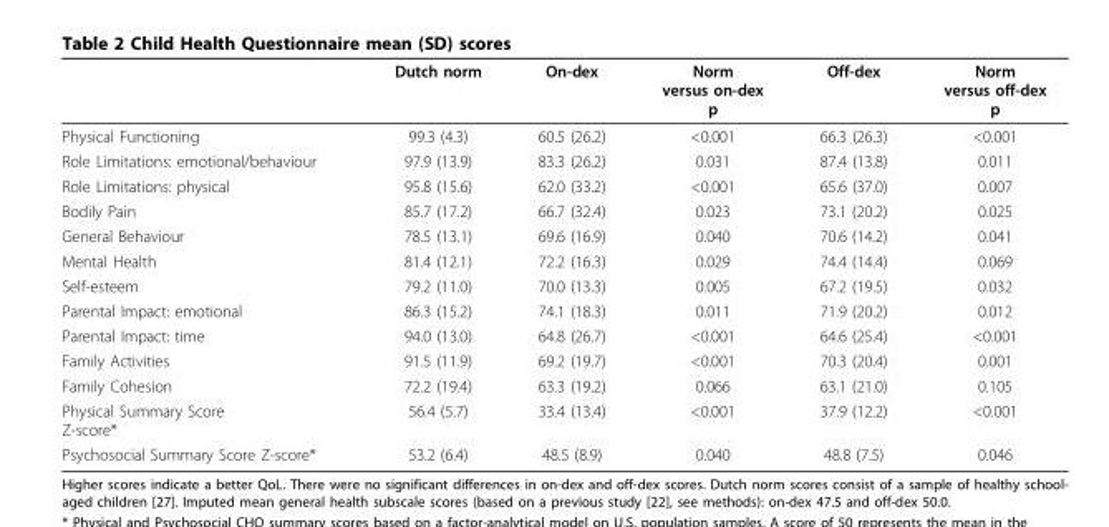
<table><thead><tr><td></td><td>Dutch norm</td><td>On-dex</td><td>Norm versus on-dex p</td><td>Off-dex</td><td>Norm versus off-dex p</td></tr></thead><tbody><tr><td>Physical Functioning</td><td>99.3 (4.3)</td><td>60.5 (26.2)</td><td>&lt;0.001</td><td>66.3 (26.3)</td><td>&lt;0.001</td></tr><tr><td>Role Limitations: emotional/behaviour</td><td>97.9 (13.9)</td><td>83.3 (26.2)</td><td>0.031</td><td>87.4 (13.8)</td><td>0.011</td></tr><tr><td>Role Limitations: physical</td><td>95.8 (15.6)</td><td>62.0 (33.2)</td><td>&lt;0.001</td><td>65.6 (37.0)</td><td>0.007</td></tr><tr><td>Bodily Pain</td><td>85.7 (17.2)</td><td>66.7 (32.4)</td><td>0.023</td><td>73.1 (20.2)</td><td>0.025</td></tr><tr><td>General Behaviour</td><td>78.5 (13.1)</td><td>69.6 (16.9)</td><td>0.040</td><td>70.6 (14.2)</td><td>0.041</td></tr><tr><td>Mental Health</td><td>81.4 (12.1)</td><td>72.2 (16.3)</td><td>0.029</td><td>74.4 (14.4)</td><td>0.069</td></tr><tr><td>Self-esteem</td><td>79.2 (11.0)</td><td>70.0 (13.3)</td><td>0.005</td><td>67.2 (19.5)</td><td>0.032</td></tr><tr><td>Parental Impact: emotional</td><td>86.3 (15.2)</td><td>74.1 (18.3)</td><td>0.011</td><td>71.9 (20.2)</td><td>0.012</td></tr><tr><td>Parental Impact: time</td><td>94.0 (13.0)</td><td>64.8 (26.7)</td><td>&lt;0.001</td><td>64.6 (25.4)</td><td>&lt;0.001</td></tr><tr><td>Family Activities</td><td>91.5 (11.9)</td><td>69.2 (19.7)</td><td>&lt;0.001</td><td>70.3 (20.4)</td><td>0.001</td></tr><tr><td>Family Cohesion</td><td>72.2 (19.4)</td><td>63.3 (19.2)</td><td>0.066</td><td>63.1 (21.0)</td><td>0.105</td></tr><tr><td>Physical Summary Score Z-score*</td><td>56.4 (5.7)</td><td>33.4 (13.4)</td><td>&lt;0.001</td><td>37.9 (12.2)</td><td>&lt;0.001</td></tr><tr><td>Psychosocial Summary Score Z-score*</td><td>53.2 (6.4)</td><td>48.5 (8.9)</td><td>0.040</td><td>48.8 (7.5)</td><td>0.046</td></tr></tbody></table>